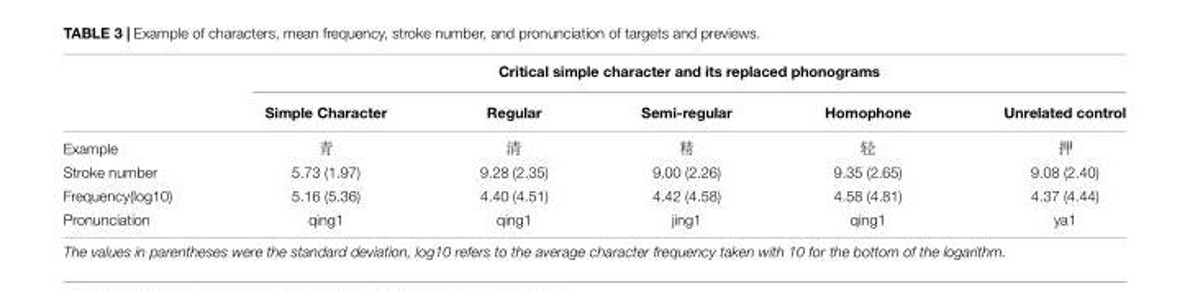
<table><thead><tr><td rowspan="2"></td><td colspan="5">Critical simple character and its replaced phonograms</td></tr><tr><td>Simple Character</td><td>Regular</td><td>Semi-regular</td><td>Homophone</td><td>Unrelated control</td></tr></thead><tbody><tr><td colspan="6">Example</td></tr><tr><td>Stroke number</td><td>5.73 (1.97)</td><td>9.28 (2.35)</td><td>9.00 (2.26)</td><td>9.35 (2.65)</td><td>9.08 (2.40)</td></tr><tr><td>Frequency(log10)</td><td>5.16 (5.36)</td><td>4.40 (4.51)</td><td>4.42 (4.58)</td><td>4.58 (4.81)</td><td>4.37 (4.44)</td></tr><tr><td>Pronunciation</td><td>qing1</td><td>qing1</td><td>jing1</td><td>qing1</td><td>ya1</td></tr></tbody></table>